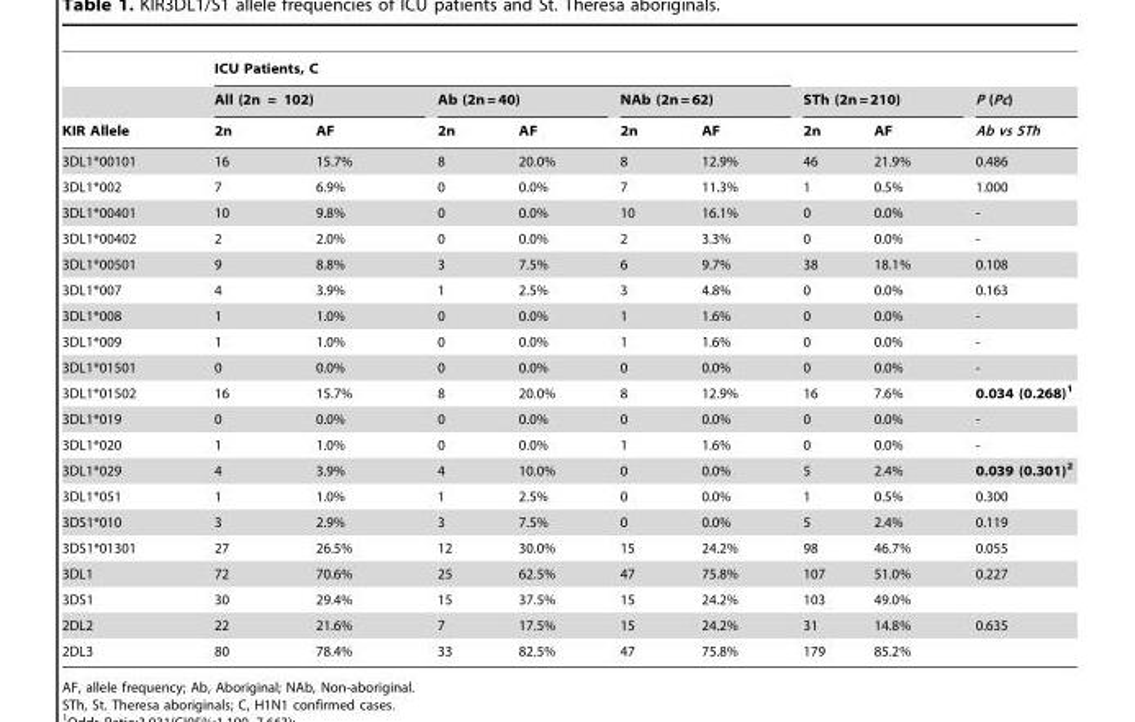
<table><thead><tr><td rowspan="3">KIR Allele</td><td colspan="6">ICU Patients, C</td><td></td><td></td><td rowspan="3">P (Pc) Ab vs STh</td></tr><tr><td colspan="2">All (2n = 102)</td><td colspan="2">Ab (2n = 40)</td><td colspan="2">NAb (2n = 62)</td><td colspan="2">STh (2n = 210)</td></tr><tr><td>2n</td><td>AF</td><td>2n</td><td>AF</td><td>2n</td><td>AF</td><td>2n</td><td>AF</td></tr></thead><tbody><tr><td>3DL1*00101</td><td>16</td><td>15.7%</td><td>8</td><td>20.0%</td><td>8</td><td>12.9%</td><td>46</td><td>21.9%</td><td>0.486</td></tr><tr><td>3DL1*002</td><td>7</td><td>6.9%</td><td>0</td><td>0.0%</td><td>7</td><td>11.3%</td><td>1</td><td>0.5%</td><td>1.000</td></tr><tr><td>3DL1*00401</td><td>10</td><td>9.8%</td><td>0</td><td>0.0%</td><td>10</td><td>16.1%</td><td>0</td><td>0.0%</td><td>-</td></tr><tr><td>3DL1*00402</td><td>2</td><td>2.0%</td><td>0</td><td>0.0%</td><td>2</td><td>3.3%</td><td>0</td><td>0.0%</td><td>-</td></tr><tr><td>3DL1*00501</td><td>9</td><td>8.8%</td><td>3</td><td>7.5%</td><td>6</td><td>9.7%</td><td>38</td><td>18.1%</td><td>0.108</td></tr><tr><td>3DL1*007</td><td>4</td><td>3.9%</td><td>1</td><td>2.5%</td><td>3</td><td>4.8%</td><td>0</td><td>0.0%</td><td>0.163</td></tr><tr><td>3DL1*008</td><td>1</td><td>1.0%</td><td>0</td><td>0.0%</td><td>1</td><td>1.6%</td><td>0</td><td>0.0%</td><td>-</td></tr><tr><td>3DL1*009</td><td>1</td><td>1.0%</td><td>0</td><td>0.0%</td><td>1</td><td>1.6%</td><td>0</td><td>0.0%</td><td>-</td></tr><tr><td>3DL1*01501</td><td>0</td><td>0.0%</td><td>0</td><td>0.0%</td><td>0</td><td>0.0%</td><td>0</td><td>0.0%</td><td>-</td></tr><tr><td>3DL1*01502</td><td>16</td><td>15.7%</td><td>8</td><td>20.0%</td><td>8</td><td>12.9%</td><td>16</td><td>7.6%</td><td>0.034 (0.268)1</td></tr><tr><td>3DL1*019</td><td>0</td><td>0.0%</td><td>0</td><td>0.0%</td><td>0</td><td>0.0%</td><td>0</td><td>0.0%</td><td>-</td></tr><tr><td>3DL1*020</td><td>1</td><td>1.0%</td><td>0</td><td>0.0%</td><td>1</td><td>1.6%</td><td>0</td><td>0.0%</td><td>-</td></tr><tr><td>3DL1*029</td><td>4</td><td>3.9%</td><td>4</td><td>10.0%</td><td>0</td><td>0.0%</td><td>5</td><td>2.4%</td><td>0.039 (0.301)2</td></tr><tr><td>3DL1*051</td><td>1</td><td>1.0%</td><td>1</td><td>2.5%</td><td>0</td><td>0.0%</td><td>1</td><td>0.5%</td><td>0.300</td></tr><tr><td>3DS1*010</td><td>3</td><td>2.9%</td><td>3</td><td>7.5%</td><td>0</td><td>0.0%</td><td>5</td><td>2.4%</td><td>0.119</td></tr><tr><td>3DS1*01301</td><td>27</td><td>26.5%</td><td>12</td><td>30.0%</td><td>15</td><td>24.2%</td><td>98</td><td>46.7%</td><td>0.055</td></tr><tr><td>3DL1</td><td>72</td><td>70.6%</td><td>25</td><td>62.5%</td><td>47</td><td>75.8%</td><td>107</td><td>51.0%</td><td>0.227</td></tr><tr><td>3DS1</td><td>30</td><td>29.4%</td><td>15</td><td>37.5%</td><td>15</td><td>24.2%</td><td>103</td><td>49.0%</td><td></td></tr><tr><td>2DL2</td><td>22</td><td>21.6%</td><td>7</td><td>17.5%</td><td>15</td><td>24.2%</td><td>31</td><td>14.8%</td><td>0.635</td></tr><tr><td>2DL3</td><td>80</td><td>78.4%</td><td>33</td><td>82.5%</td><td>47</td><td>75.8%</td><td>179</td><td>85.2%</td><td></td></tr></tbody></table>